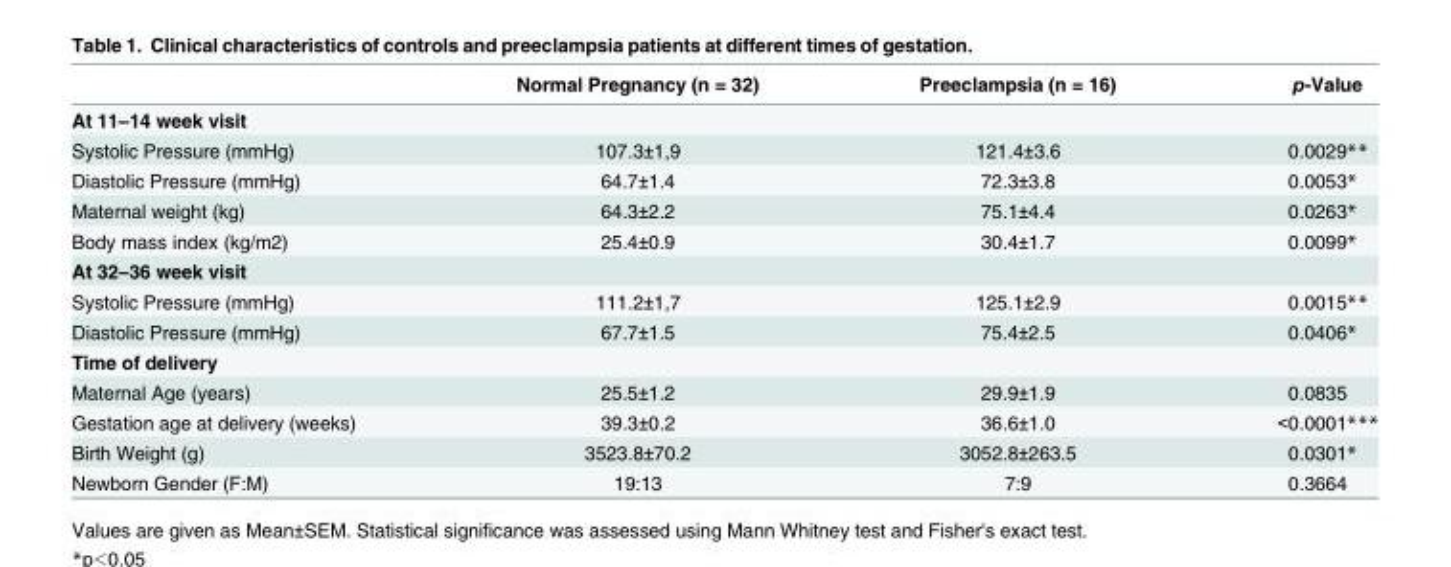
<table><thead><tr><td></td><td>Normal Pregnancy (n = 32)</td><td>Preeclampsia (n = 16)</td><td>p-Value</td></tr></thead><tbody><tr><td colspan="4">At 11–14 week visit</td></tr><tr><td>Systolic Pressure (mmHg)</td><td>107.3±1,9</td><td>121.4±3.6</td><td>0.0029**</td></tr><tr><td>Diastolic Pressure (mmHg)</td><td>64.7±1.4</td><td>72.3±3.8</td><td>0.0053*</td></tr><tr><td>Maternal weight (kg)</td><td>64.3±2.2</td><td>75.1±4.4</td><td>0.0263*</td></tr><tr><td>Body mass index (kg/m2)</td><td>25.4±0.9</td><td>30.4±1.7</td><td>0.0099*</td></tr><tr><td colspan="4">At 32–36 week visit</td></tr><tr><td>Systolic Pressure (mmHg)</td><td>111.2±1,7</td><td>125.1±2.9</td><td>0.0015**</td></tr><tr><td>Diastolic Pressure (mmHg)</td><td>67.7±1.5</td><td>75.4±2.5</td><td>0.0406*</td></tr><tr><td colspan="4">Time of delivery</td></tr><tr><td>Maternal Age (years)</td><td>25.5±1.2</td><td>29.9±1.9</td><td>0.0835</td></tr><tr><td>Gestation age at delivery (weeks)</td><td>39.3±0.2</td><td>36.6±1.0</td><td>&lt;0.0001***</td></tr><tr><td>Birth Weight (g)</td><td>3523.8±70.2</td><td>3052.8±263.5</td><td>0.0301*</td></tr><tr><td>Newborn Gender (F:M)</td><td>19:13</td><td>7:9</td><td>0.3664</td></tr></tbody></table>